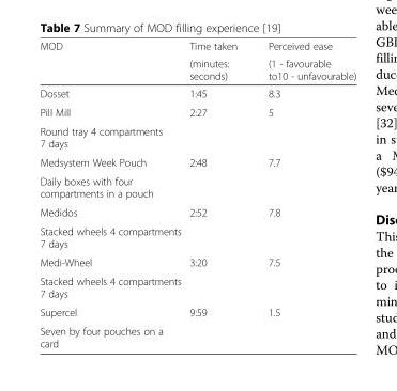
<table><thead><tr><td rowspan="2">MOD</td><td rowspan="2">Time taken (minutes: seconds)</td><td rowspan="2">Perceived ease (1 - favourable to10 - unfavourable)</td></tr><tr></tr></thead><tbody><tr><td>Dosset</td><td>1:45</td><td>8.3</td></tr><tr><td>Pill Mill</td><td rowspan="2">2:27</td><td rowspan="2">5</td></tr><tr><td>Round tray 4 compartments 7 days</td></tr><tr><td>Medsystem Week Pouch</td><td rowspan="2">2:48</td><td rowspan="2">7.7</td></tr><tr><td>Daily boxes with four compartments in a pouch</td></tr><tr><td>Medidos</td><td rowspan="2">2:52</td><td rowspan="2">7.8</td></tr><tr><td>Stacked wheels 4 compartments 7 days</td></tr><tr><td>Medi-Wheel</td><td rowspan="2">3:20</td><td rowspan="2">7.5</td></tr><tr><td>Stacked wheels 4 compartments 7 days</td></tr><tr><td>Supercel</td><td rowspan="2">9:59</td><td rowspan="2">1.5</td></tr><tr><td>Seven by four pouches on a card</td></tr></tbody></table>